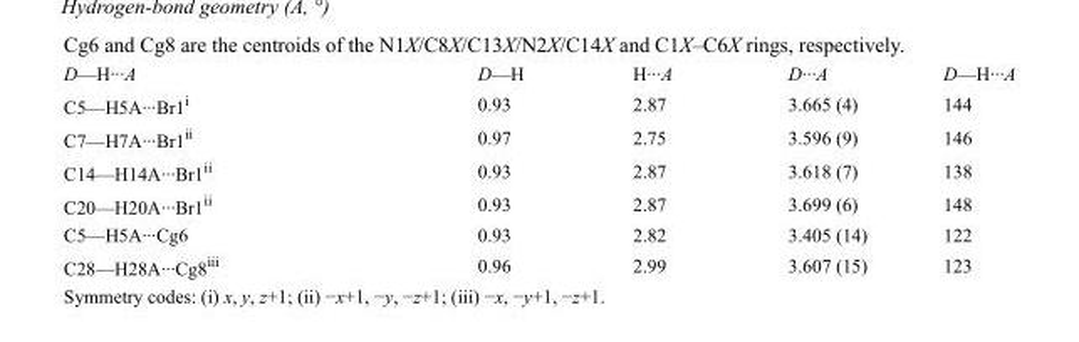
<table><tbody><tr><td>D—H···A</td><td>D—H</td><td>H···A</td><td>D···A</td><td>D—H···A</td></tr><tr><td>C5—H5A···Br1<sup>i</sup></td><td>0.93</td><td>2.87</td><td>3.665 (4)</td><td>144</td></tr><tr><td>C7—H7A···Br1<sup>ii</sup></td><td>0.97</td><td>2.75</td><td>3.596 (9)</td><td>146</td></tr><tr><td>C14—H14A···Br1<sup>ii</sup></td><td>0.93</td><td>2.87</td><td>3.618 (7)</td><td>138</td></tr><tr><td>C20—H20A···Br1<sup>ii</sup></td><td>0.93</td><td>2.87</td><td>3.699 (6)</td><td>148</td></tr><tr><td>C5—H5A···Cg6</td><td>0.93</td><td>2.82</td><td>3.405 (14)</td><td>122</td></tr><tr><td>C28—H28A···Cg8<sup>iii</sup></td><td>0.96</td><td>2.99</td><td>3.607 (15)</td><td>123</td></tr></tbody></table>